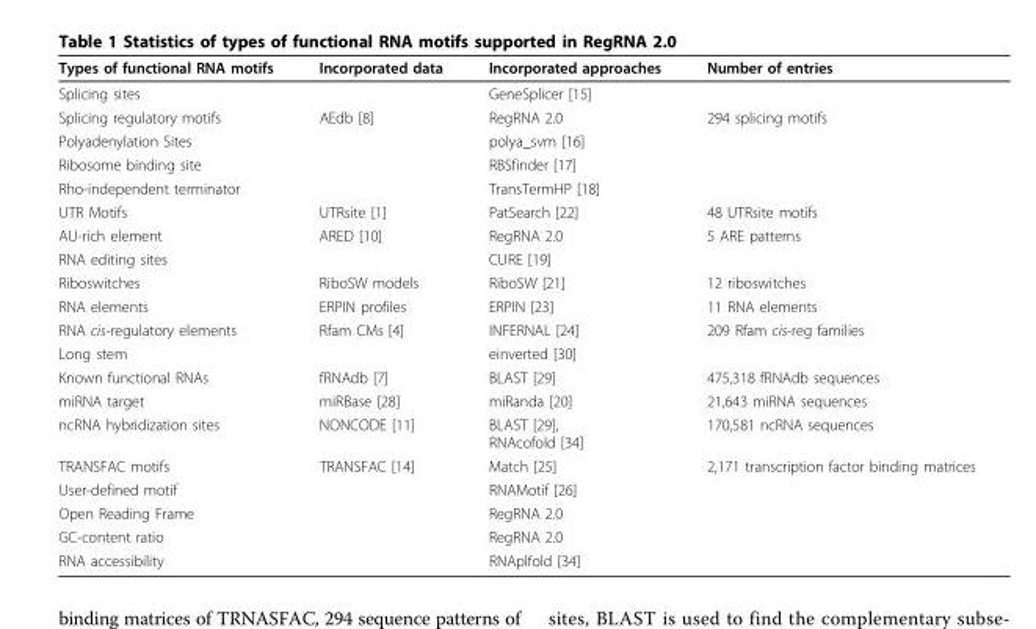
<table><thead><tr><td>Types of functional RNA motifs</td><td>Incorporated data</td><td>Incorporated approaches</td><td>Number of entries</td></tr></thead><tbody><tr><td>Splicing sites</td><td></td><td>GeneSplicer [15]</td><td></td></tr><tr><td>Splicing regulatory motifs</td><td>AEdb [8]</td><td>RegRNA 2.0</td><td>294 splicing motifs</td></tr><tr><td>Polyadenylation Sites</td><td></td><td>polya_svm [16]</td><td></td></tr><tr><td>Ribosome binding site</td><td></td><td>RBSfinder [17]</td><td></td></tr><tr><td>Rho-independent terminator</td><td></td><td>TransTermHP [18]</td><td></td></tr><tr><td>UTR Motifs</td><td>UTRsite [1]</td><td>PatSearch [22]</td><td>48 UTRsite motifs</td></tr><tr><td>AU-rich element</td><td>ARED [10]</td><td>RegRNA 2.0</td><td>5 ARE patterns</td></tr><tr><td>RNA editing sites</td><td></td><td>CURE [19]</td><td></td></tr><tr><td>Riboswitches</td><td>RiboSW models</td><td>RiboSW [21]</td><td>12 riboswitches</td></tr><tr><td>RNA elements</td><td>ERPIN profiles</td><td>ERPIN [23]</td><td>11 RNA elements</td></tr><tr><td>RNA cis-regulatory elements</td><td>Rfam CMs [4]</td><td>INFERNAL [24]</td><td>209 Rfam cis-reg families</td></tr><tr><td>Long stem</td><td></td><td>einverted [30]</td><td></td></tr><tr><td>Known functional RNAs</td><td>fRNAdb [7]</td><td>BLAST [29]</td><td>475,318 fRNAdb sequences</td></tr><tr><td>miRNA target</td><td>miRBase [28]</td><td>miRanda [20]</td><td>21,643 miRNA sequences</td></tr><tr><td>ncRNA hybridization sites</td><td>NONCODE [11]</td><td>BLAST [29], RNAcofold [34]</td><td>170,581 ncRNA sequences</td></tr><tr><td>TRANSFAC motifs</td><td>TRANSFAC [14]</td><td>Match [25]</td><td>2,171 transcription factor binding matrices</td></tr><tr><td>User-defined motif</td><td></td><td>RNAMotif [26]</td><td></td></tr><tr><td>Open Reading Frame</td><td></td><td>RegRNA 2.0</td><td></td></tr><tr><td>GC-content ratio</td><td></td><td>RegRNA 2.0</td><td></td></tr><tr><td>RNA accessibility</td><td></td><td>RNAplfold [34]</td><td></td></tr></tbody></table>